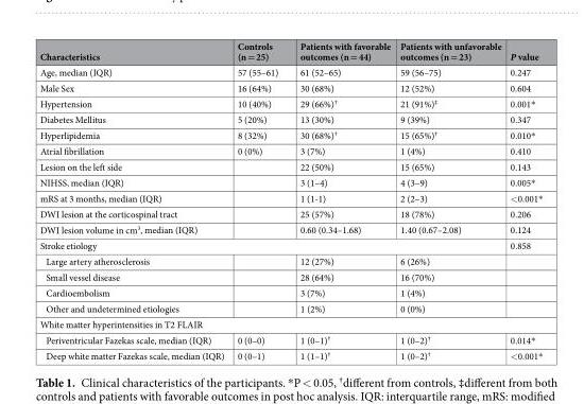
<table><thead><tr><td>Characteristics</td><td>Controls (n = 25)</td><td>Patients with favorable outcomes (n = 44)</td><td>Patients with unfavorable outcomes (n = 23)</td><td>P value</td></tr></thead><tbody><tr><td>Age, median (IQR)</td><td>57 (55–61)</td><td>61 (52–65)</td><td>59 (56–75)</td><td>0.247</td></tr><tr><td>Male Sex</td><td>16 (64%)</td><td>30 (68%)</td><td>12 (52%)</td><td>0.604</td></tr><tr><td>Hypertension</td><td>10 (40%)</td><td>29 (66%)<sup>†</sup></td><td>21 (91%)<sup>‡</sup></td><td>0.001*</td></tr><tr><td>Diabetes Mellitus</td><td>5 (20%)</td><td>13 (30%)</td><td>9 (39%)</td><td>0.347</td></tr><tr><td>Hyperlipidemia</td><td>8 (32%)</td><td>30 (68%)<sup>†</sup></td><td>15 (65%)<sup>†</sup></td><td>0.010*</td></tr><tr><td>Atrial fibrillation</td><td>0 (0%)</td><td>3 (7%)</td><td>1 (4%)</td><td>0.410</td></tr><tr><td>Lesion on the left side</td><td></td><td>22 (50%)</td><td>15 (65%)</td><td>0.143</td></tr><tr><td>NIHSS, median (IQR)</td><td></td><td>3 (1–4)</td><td>4 (3–9)</td><td>0.005*</td></tr><tr><td>mRS at 3 months, median (IQR)</td><td></td><td>1 (1-1)</td><td>2 (2–3)</td><td>&lt;0.001*</td></tr><tr><td>DWI lesion at the corticospinal tract</td><td></td><td>25 (57%)</td><td>18 (78%)</td><td>0.206</td></tr><tr><td>DWI lesion volume in cm<sup>3</sup>, median (IQR)</td><td></td><td>0.60 (0.34–1.68)</td><td>1.40 (0.67–2.08)</td><td>0.124</td></tr><tr><td colspan="4">Stroke etiology</td><td>0.858</td></tr><tr><td>Large artery atherosclerosis</td><td></td><td>12 (27%)</td><td>6 (26%)</td><td></td></tr><tr><td>Small vessel disease</td><td></td><td>28 (64%)</td><td>16 (70%)</td><td></td></tr><tr><td>Cardioembolism</td><td></td><td>3 (7%)</td><td>1 (4%)</td><td></td></tr><tr><td>Other and undetermined etiologies</td><td></td><td>1 (2%)</td><td>0 (0%)</td><td></td></tr><tr><td colspan="5">White matter hyperintensities in T2 FLAIR</td></tr><tr><td>Periventricular Fazekas scale, median (IQR)</td><td>0 (0–0)</td><td>1 (0–1)<sup>†</sup></td><td>1 (0–2)<sup>†</sup></td><td>0.014*</td></tr><tr><td>Deep white matter Fazekas scale, median (IQR)</td><td>0 (0–1)</td><td>1 (1–1)<sup>†</sup></td><td>1 (0–2)<sup>†</sup></td><td>&lt;0.001*</td></tr></tbody></table>